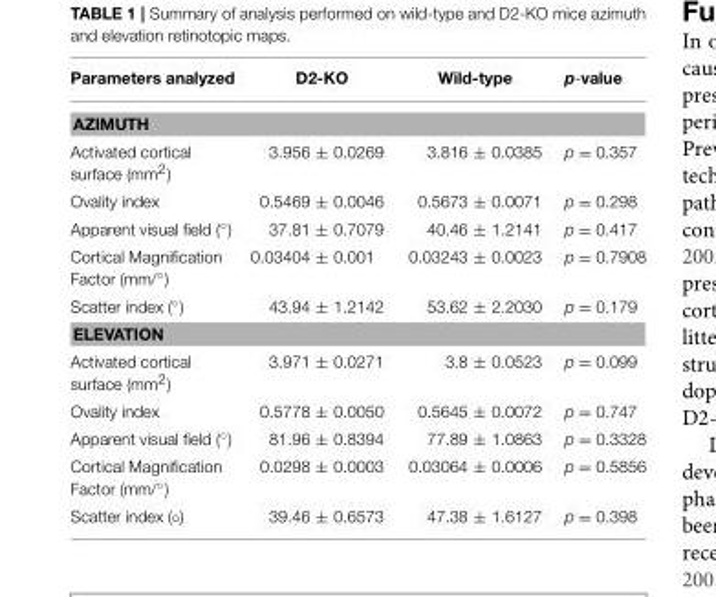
<table><thead><tr><td>Parameters analyzed</td><td>D2-KO</td><td>Wild-type</td><td>p-value</td></tr></thead><tbody><tr><td colspan="4">AZIMUTH</td></tr><tr><td>Activated cortical surface (mm<sup>2</sup>)</td><td>3.956 ± 0.0269</td><td>3.816 ± 0.0385</td><td>p = 0.357</td></tr><tr><td>Ovality index</td><td>0.5469 ± 0.0046</td><td>0.5673 ± 0.0071</td><td>p = 0.298</td></tr><tr><td>Apparent visual field (<sup>◦</sup>)</td><td>37.81 ± 0.7079</td><td>40.46 ± 1.2141</td><td>p = 0.417</td></tr><tr><td>Cortical Magnification Factor (mm/<sup>◦</sup>)</td><td>0.03404 ± 0.001</td><td>0.03243 ± 0.0023</td><td>p = 0.7908</td></tr><tr><td>Scatter index (<sup>◦</sup>)</td><td>43.94 ± 1.2142</td><td>53.62 ± 2.2030</td><td>p = 0.179</td></tr><tr><td colspan="4">ELEVATION</td></tr><tr><td>Activated cortical surface (mm<sup>2</sup>)</td><td>3.971 ± 0.0271</td><td>3.8 ± 0.0523</td><td>p = 0.099</td></tr><tr><td>Ovality index</td><td>0.5778 ± 0.0050</td><td>0.5645 ± 0.0072</td><td>p = 0.747</td></tr><tr><td>Apparent visual field (<sup>◦</sup>)</td><td>81.96 ± 0.8394</td><td>77.89 ± 1.0863</td><td>p = 0.3328</td></tr><tr><td>Cortical Magnification Factor (mm/<sup>◦</sup>)</td><td>0.0298 ± 0.0003</td><td>0.03064 ± 0.0006</td><td>p = 0.5856</td></tr><tr><td>Scatter index (◦)</td><td>39.46 ± 0.6573</td><td>47.38 ± 1.6127</td><td>p = 0.398</td></tr></tbody></table>